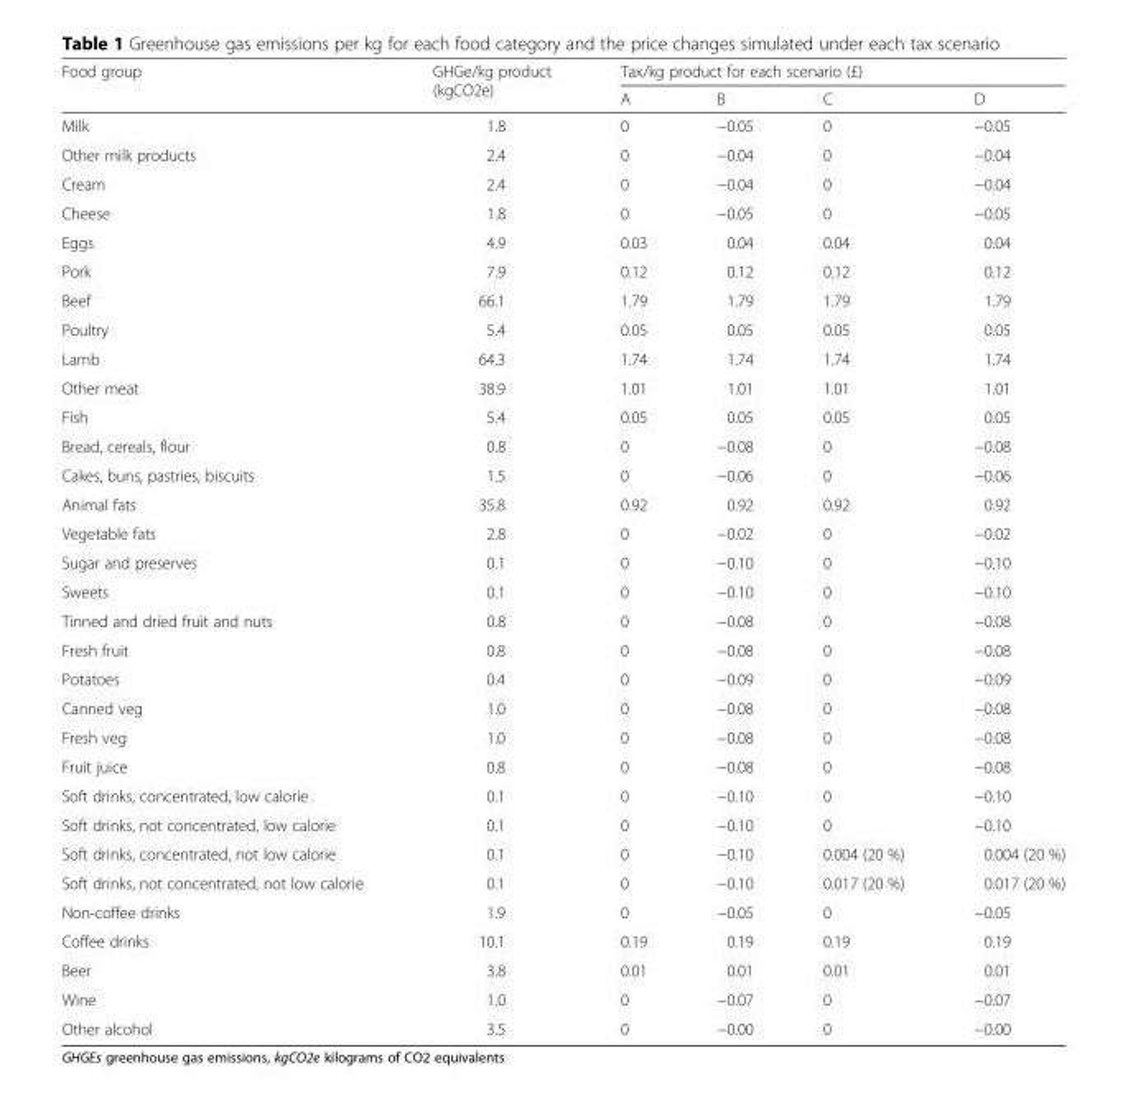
<table><thead><tr><td rowspan="2">Food group</td><td rowspan="2">GHGe/kg product (kgCO2e)</td><td colspan="4">Tax/kg product for each scenario (£)</td></tr><tr><td>A</td><td>B</td><td>C</td><td>D</td></tr></thead><tbody><tr><td>Milk</td><td>1.8</td><td>0</td><td>−0.05</td><td>0</td><td>−0.05</td></tr><tr><td>Other milk products</td><td>2.4</td><td>0</td><td>−0.04</td><td>0</td><td>−0.04</td></tr><tr><td>Cream</td><td>2.4</td><td>0</td><td>−0.04</td><td>0</td><td>−0.04</td></tr><tr><td>Cheese</td><td>1.8</td><td>0</td><td>−0.05</td><td>0</td><td>−0.05</td></tr><tr><td>Eggs</td><td>4.9</td><td>0.03</td><td>0.04</td><td>0.04</td><td>0.04</td></tr><tr><td>Pork</td><td>7.9</td><td>0.12</td><td>0.12</td><td>0.12</td><td>0.12</td></tr><tr><td>Beef</td><td>66.1</td><td>1.79</td><td>1.79</td><td>1.79</td><td>1.79</td></tr><tr><td>Poultry</td><td>5.4</td><td>0.05</td><td>0.05</td><td>0.05</td><td>0.05</td></tr><tr><td>Lamb</td><td>64.3</td><td>1.74</td><td>1.74</td><td>1.74</td><td>1.74</td></tr><tr><td>Other meat</td><td>38.9</td><td>1.01</td><td>1.01</td><td>1.01</td><td>1.01</td></tr><tr><td>Fish</td><td>5.4</td><td>0.05</td><td>0.05</td><td>0.05</td><td>0.05</td></tr><tr><td>Bread, cereals, flour</td><td>0.8</td><td>0</td><td>−0.08</td><td>0</td><td>−0.08</td></tr><tr><td>Cakes, buns, pastries, biscuits</td><td>1.5</td><td>0</td><td>−0.06</td><td>0</td><td>−0.06</td></tr><tr><td>Animal fats</td><td>35.8</td><td>0.92</td><td>0.92</td><td>0.92</td><td>0.92</td></tr><tr><td>Vegetable fats</td><td>2.8</td><td>0</td><td>−0.02</td><td>0</td><td>−0.02</td></tr><tr><td>Sugar and preserves</td><td>0.1</td><td>0</td><td>−0.10</td><td>0</td><td>−0.10</td></tr><tr><td>Sweets</td><td>0.1</td><td>0</td><td>−0.10</td><td>0</td><td>−0.10</td></tr><tr><td>Tinned and dried fruit and nuts</td><td>0.8</td><td>0</td><td>−0.08</td><td>0</td><td>−0.08</td></tr><tr><td>Fresh fruit</td><td>0.8</td><td>0</td><td>−0.08</td><td>0</td><td>−0.08</td></tr><tr><td>Potatoes</td><td>0.4</td><td>0</td><td>−0.09</td><td>0</td><td>−0.09</td></tr><tr><td>Canned veg</td><td>1.0</td><td>0</td><td>−0.08</td><td>0</td><td>−0.08</td></tr><tr><td>Fresh veg</td><td>1.0</td><td>0</td><td>−0.08</td><td>0</td><td>−0.08</td></tr><tr><td>Fruit juice</td><td>0.8</td><td>0</td><td>−0.08</td><td>0</td><td>−0.08</td></tr><tr><td>Soft drinks, concentrated, low calorie</td><td>0.1</td><td>0</td><td>−0.10</td><td>0</td><td>−0.10</td></tr><tr><td>Soft drinks, not concentrated, low calorie</td><td>0.1</td><td>0</td><td>−0.10</td><td>0</td><td>−0.10</td></tr><tr><td>Soft drinks, concentrated, not low calorie</td><td>0.1</td><td>0</td><td>−0.10</td><td>0.004 (20 %)</td><td>0.004 (20 %)</td></tr><tr><td>Soft drinks, not concentrated, not low calorie</td><td>0.1</td><td>0</td><td>−0.10</td><td>0.017 (20 %)</td><td>0.017 (20 %)</td></tr><tr><td>Non-coffee drinks</td><td>1.9</td><td>0</td><td>−0.05</td><td>0</td><td>−0.05</td></tr><tr><td>Coffee drinks</td><td>10.1</td><td>0.19</td><td>0.19</td><td>0.19</td><td>0.19</td></tr><tr><td>Beer</td><td>3.8</td><td>0.01</td><td>0.01</td><td>0.01</td><td>0.01</td></tr><tr><td>Wine</td><td>1.0</td><td>0</td><td>−0.07</td><td>0</td><td>−0.07</td></tr><tr><td>Other alcohol</td><td>3.5</td><td>0</td><td>−0.00</td><td>0</td><td>−0.00</td></tr></tbody></table>